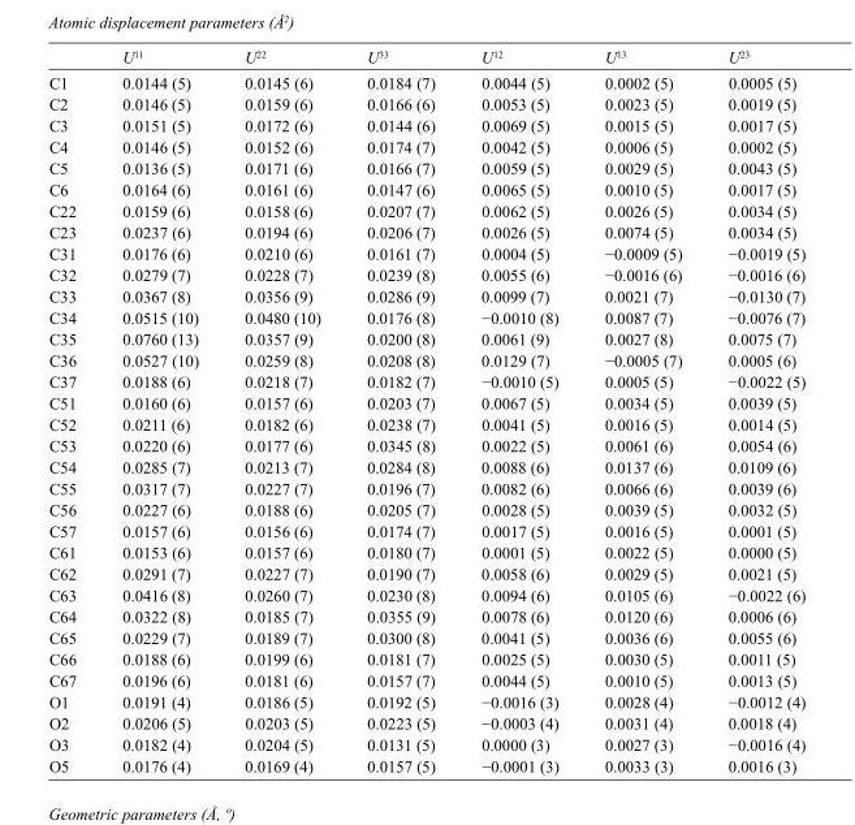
<table><thead><tr><td></td><td>U<sup>11</sup></td><td>U<sup>22</sup></td><td>U<sup>33</sup></td><td>U<sup>12</sup></td><td>U<sup>13</sup></td><td>U<sup>23</sup></td></tr></thead><tbody><tr><td>C1</td><td>0.0144 (5)</td><td>0.0145 (6)</td><td>0.0184 (7)</td><td>0.0044 (5)</td><td>0.0002 (5)</td><td>0.0005 (5)</td></tr><tr><td>C2</td><td>0.0146 (5)</td><td>0.0159 (6)</td><td>0.0166 (6)</td><td>0.0053 (5)</td><td>0.0023 (5)</td><td>0.0019 (5)</td></tr><tr><td>C3</td><td>0.0151 (5)</td><td>0.0172 (6)</td><td>0.0144 (6)</td><td>0.0069 (5)</td><td>0.0015 (5)</td><td>0.0017 (5)</td></tr><tr><td>C4</td><td>0.0146 (5)</td><td>0.0152 (6)</td><td>0.0174 (7)</td><td>0.0042 (5)</td><td>0.0006 (5)</td><td>0.0002 (5)</td></tr><tr><td>C5</td><td>0.0136 (5)</td><td>0.0171 (6)</td><td>0.0166 (7)</td><td>0.0059 (5)</td><td>0.0029 (5)</td><td>0.0043 (5)</td></tr><tr><td>C6</td><td>0.0164 (6)</td><td>0.0161 (6)</td><td>0.0147 (6)</td><td>0.0065 (5)</td><td>0.0010 (5)</td><td>0.0017 (5)</td></tr><tr><td>C22</td><td>0.0159 (6)</td><td>0.0158 (6)</td><td>0.0207 (7)</td><td>0.0062 (5)</td><td>0.0026 (5)</td><td>0.0034 (5)</td></tr><tr><td>C23</td><td>0.0237 (6)</td><td>0.0194 (6)</td><td>0.0206 (7)</td><td>0.0026 (5)</td><td>0.0074 (5)</td><td>0.0034 (5)</td></tr><tr><td>C31</td><td>0.0176 (6)</td><td>0.0210 (6)</td><td>0.0161 (7)</td><td>0.0004 (5)</td><td>−0.0009 (5)</td><td>−0.0019 (5)</td></tr><tr><td>C32</td><td>0.0279 (7)</td><td>0.0228 (7)</td><td>0.0239 (8)</td><td>0.0055 (6)</td><td>−0.0016 (6)</td><td>−0.0016 (6)</td></tr><tr><td>C33</td><td>0.0367 (8)</td><td>0.0356 (9)</td><td>0.0286 (9)</td><td>0.0099 (7)</td><td>0.0021 (7)</td><td>−0.0130 (7)</td></tr><tr><td>C34</td><td>0.0515 (10)</td><td>0.0480 (10)</td><td>0.0176 (8)</td><td>−0.0010 (8)</td><td>0.0087 (7)</td><td>−0.0076 (7)</td></tr><tr><td>C35</td><td>0.0760 (13)</td><td>0.0357 (9)</td><td>0.0200 (8)</td><td>0.0061 (9)</td><td>0.0027 (8)</td><td>0.0075 (7)</td></tr><tr><td>C36</td><td>0.0527 (10)</td><td>0.0259 (8)</td><td>0.0208 (8)</td><td>0.0129 (7)</td><td>−0.0005 (7)</td><td>0.0005 (6)</td></tr><tr><td>C37</td><td>0.0188 (6)</td><td>0.0218 (7)</td><td>0.0182 (7)</td><td>−0.0010 (5)</td><td>0.0005 (5)</td><td>−0.0022 (5)</td></tr><tr><td>C51</td><td>0.0160 (6)</td><td>0.0157 (6)</td><td>0.0203 (7)</td><td>0.0067 (5)</td><td>0.0034 (5)</td><td>0.0039 (5)</td></tr><tr><td>C52</td><td>0.0211 (6)</td><td>0.0182 (6)</td><td>0.0238 (7)</td><td>0.0041 (5)</td><td>0.0016 (5)</td><td>0.0014 (5)</td></tr><tr><td>C53</td><td>0.0220 (6)</td><td>0.0177 (6)</td><td>0.0345 (8)</td><td>0.0022 (5)</td><td>0.0061 (6)</td><td>0.0054 (6)</td></tr><tr><td>C54</td><td>0.0285 (7)</td><td>0.0213 (7)</td><td>0.0284 (8)</td><td>0.0088 (6)</td><td>0.0137 (6)</td><td>0.0109 (6)</td></tr><tr><td>C55</td><td>0.0317 (7)</td><td>0.0227 (7)</td><td>0.0196 (7)</td><td>0.0082 (6)</td><td>0.0066 (6)</td><td>0.0039 (6)</td></tr><tr><td>C56</td><td>0.0227 (6)</td><td>0.0188 (6)</td><td>0.0205 (7)</td><td>0.0028 (5)</td><td>0.0039 (5)</td><td>0.0032 (5)</td></tr><tr><td>C57</td><td>0.0157 (6)</td><td>0.0156 (6)</td><td>0.0174 (7)</td><td>0.0017 (5)</td><td>0.0016 (5)</td><td>0.0001 (5)</td></tr><tr><td>C61</td><td>0.0153 (6)</td><td>0.0157 (6)</td><td>0.0180 (7)</td><td>0.0001 (5)</td><td>0.0022 (5)</td><td>0.0000 (5)</td></tr><tr><td>C62</td><td>0.0291 (7)</td><td>0.0227 (7)</td><td>0.0190 (7)</td><td>0.0058 (6)</td><td>0.0029 (5)</td><td>0.0021 (5)</td></tr><tr><td>C63</td><td>0.0416 (8)</td><td>0.0260 (7)</td><td>0.0230 (8)</td><td>0.0094 (6)</td><td>0.0105 (6)</td><td>−0.0022 (6)</td></tr><tr><td>C64</td><td>0.0322 (8)</td><td>0.0185 (7)</td><td>0.0355 (9)</td><td>0.0078 (6)</td><td>0.0120 (6)</td><td>0.0006 (6)</td></tr><tr><td>C65</td><td>0.0229 (7)</td><td>0.0189 (7)</td><td>0.0300 (8)</td><td>0.0041 (5)</td><td>0.0036 (6)</td><td>0.0055 (6)</td></tr><tr><td>C66</td><td>0.0188 (6)</td><td>0.0199 (6)</td><td>0.0181 (7)</td><td>0.0025 (5)</td><td>0.0030 (5)</td><td>0.0011 (5)</td></tr><tr><td>C67</td><td>0.0196 (6)</td><td>0.0181 (6)</td><td>0.0157 (7)</td><td>0.0044 (5)</td><td>0.0010 (5)</td><td>0.0013 (5)</td></tr><tr><td>O1</td><td>0.0191 (4)</td><td>0.0186 (5)</td><td>0.0192 (5)</td><td>−0.0016 (3)</td><td>0.0028 (4)</td><td>−0.0012 (4)</td></tr><tr><td>O2</td><td>0.0206 (5)</td><td>0.0203 (5)</td><td>0.0223 (5)</td><td>−0.0003 (4)</td><td>0.0031 (4)</td><td>0.0018 (4)</td></tr><tr><td>O3</td><td>0.0182 (4)</td><td>0.0204 (5)</td><td>0.0131 (5)</td><td>0.0000 (3)</td><td>0.0027 (3)</td><td>−0.0016 (4)</td></tr><tr><td>O5</td><td>0.0176 (4)</td><td>0.0169 (4)</td><td>0.0157 (5)</td><td>−0.0001 (3)</td><td>0.0033 (3)</td><td>0.0016 (3)</td></tr></tbody></table>